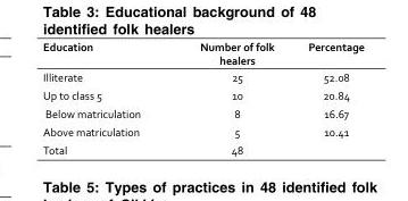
<table><thead><tr><td>Education</td><td>Number of folk healers</td><td>Percentage</td></tr></thead><tbody><tr><td>Illiterate</td><td>25</td><td>52.08</td></tr><tr><td>Up to class 5</td><td>10</td><td>20.84</td></tr><tr><td>Below matriculation</td><td>8</td><td>16.67</td></tr><tr><td>Above matriculation</td><td>5</td><td>10.41</td></tr><tr><td>Total</td><td>48</td><td></td></tr></tbody></table>